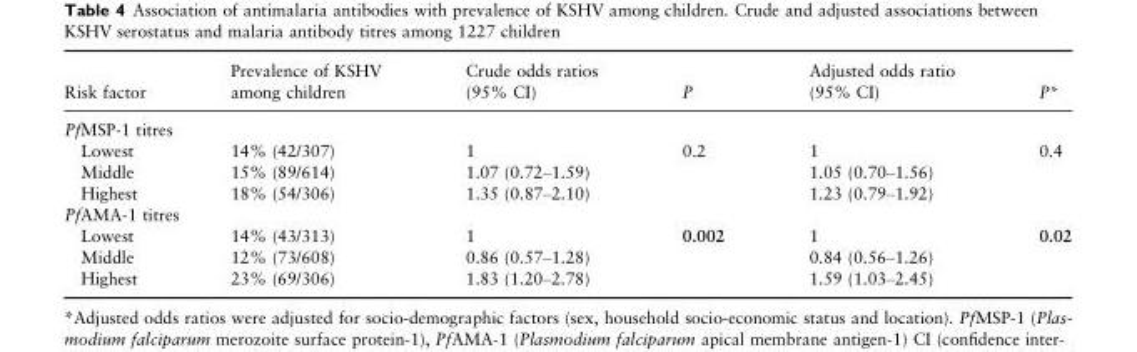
<table><thead><tr><td>Risk factor</td><td>Prevalence of KSHV among children</td><td>Crude odds ratios (95% CI)</td><td>P</td><td>Adjusted odds ratio (95% CI)</td><td>P*</td></tr></thead><tbody><tr><td colspan="6">PfMSP-1 titres</td></tr><tr><td>Lowest</td><td>14% (42/307)</td><td>1</td><td rowspan="3">0.2</td><td>1</td><td rowspan="3">0.4</td></tr><tr><td>Middle</td><td>15% (89/614)</td><td>1.07 (0.72–1.59)</td><td>1.05 (0.70–1.56)</td></tr><tr><td>Highest</td><td>18% (54/306)</td><td>1.35 (0.87–2.10)</td><td>1.23 (0.79–1.92)</td></tr><tr><td colspan="6">PfAMA-1 titres</td></tr><tr><td>Lowest</td><td>14% (43/313)</td><td>1</td><td rowspan="3">0.002</td><td>1</td><td rowspan="3">0.02</td></tr><tr><td>Middle</td><td>12% (73/608)</td><td>0.86 (0.57–1.28)</td><td>0.84 (0.56–1.26)</td></tr><tr><td>Highest</td><td>23% (69/306)</td><td>1.83 (1.20–2.78)</td><td>1.59 (1.03–2.45)</td></tr></tbody></table>